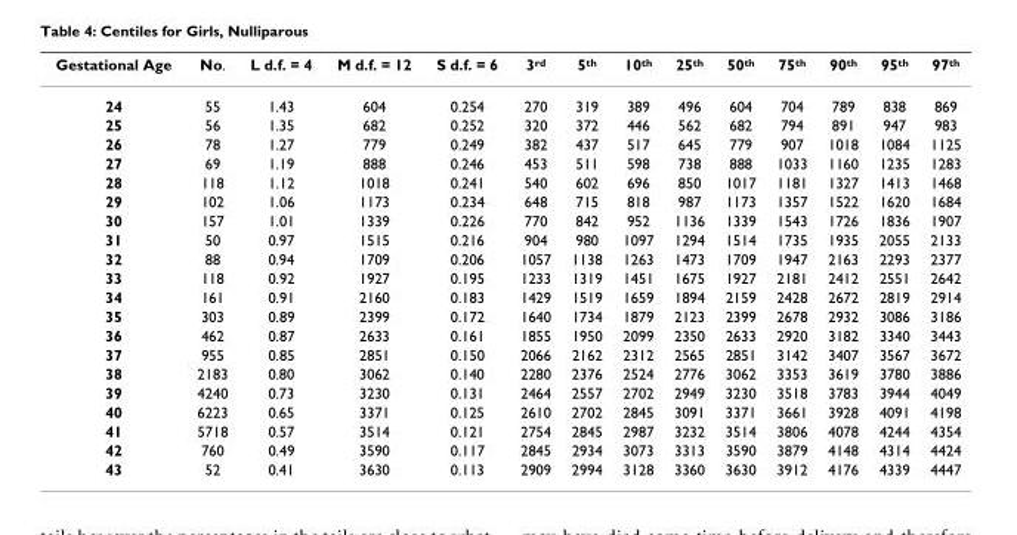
<table><thead><tr><td>Gestational Age</td><td>No.</td><td>L d.f. = 4</td><td>M d.f. = 12</td><td>S d.f. = 6</td><td>3<sup>rd</sup></td><td>5<sup>th</sup></td><td>10<sup>th</sup></td><td>25<sup>th</sup></td><td>50<sup>th</sup></td><td>75<sup>th</sup></td><td>90<sup>th</sup></td><td>95<sup>th</sup></td><td>97<sup>th</sup></td></tr></thead><tbody><tr><td>24</td><td>55</td><td>1.43</td><td>604</td><td>0.254</td><td>270</td><td>319</td><td>389</td><td>496</td><td>604</td><td>704</td><td>789</td><td>838</td><td>869</td></tr><tr><td>25</td><td>56</td><td>1.35</td><td>682</td><td>0.252</td><td>320</td><td>372</td><td>446</td><td>562</td><td>682</td><td>794</td><td>891</td><td>947</td><td>983</td></tr><tr><td>26</td><td>78</td><td>1.27</td><td>779</td><td>0.249</td><td>382</td><td>437</td><td>517</td><td>645</td><td>779</td><td>907</td><td>1018</td><td>1084</td><td>1125</td></tr><tr><td>27</td><td>69</td><td>1.19</td><td>888</td><td>0.246</td><td>453</td><td>511</td><td>598</td><td>738</td><td>888</td><td>1033</td><td>1160</td><td>1235</td><td>1283</td></tr><tr><td>28</td><td>118</td><td>1.12</td><td>1018</td><td>0.241</td><td>540</td><td>602</td><td>696</td><td>850</td><td>1017</td><td>1181</td><td>1327</td><td>1413</td><td>1468</td></tr><tr><td>29</td><td>102</td><td>1.06</td><td>1173</td><td>0.234</td><td>648</td><td>715</td><td>818</td><td>987</td><td>1173</td><td>1357</td><td>1522</td><td>1620</td><td>1684</td></tr><tr><td>30</td><td>157</td><td>1.01</td><td>1339</td><td>0.226</td><td>770</td><td>842</td><td>952</td><td>1136</td><td>1339</td><td>1543</td><td>1726</td><td>1836</td><td>1907</td></tr><tr><td>31</td><td>50</td><td>0.97</td><td>1515</td><td>0.216</td><td>904</td><td>980</td><td>1097</td><td>1294</td><td>1514</td><td>1735</td><td>1935</td><td>2055</td><td>2133</td></tr><tr><td>32</td><td>88</td><td>0.94</td><td>1709</td><td>0.206</td><td>1057</td><td>1138</td><td>1263</td><td>1473</td><td>1709</td><td>1947</td><td>2163</td><td>2293</td><td>2377</td></tr><tr><td>33</td><td>118</td><td>0.92</td><td>1927</td><td>0.195</td><td>1233</td><td>1319</td><td>1451</td><td>1675</td><td>1927</td><td>2181</td><td>2412</td><td>2551</td><td>2642</td></tr><tr><td>34</td><td>161</td><td>0.91</td><td>2160</td><td>0.183</td><td>1429</td><td>1519</td><td>1659</td><td>1894</td><td>2159</td><td>2428</td><td>2672</td><td>2819</td><td>2914</td></tr><tr><td>35</td><td>303</td><td>0.89</td><td>2399</td><td>0.172</td><td>1640</td><td>1734</td><td>1879</td><td>2123</td><td>2399</td><td>2678</td><td>2932</td><td>3086</td><td>3186</td></tr><tr><td>36</td><td>462</td><td>0.87</td><td>2633</td><td>0.161</td><td>1855</td><td>1950</td><td>2099</td><td>2350</td><td>2633</td><td>2920</td><td>3182</td><td>3340</td><td>3443</td></tr><tr><td>37</td><td>955</td><td>0.85</td><td>2851</td><td>0.150</td><td>2066</td><td>2162</td><td>2312</td><td>2565</td><td>2851</td><td>3142</td><td>3407</td><td>3567</td><td>3672</td></tr><tr><td>38</td><td>2183</td><td>0.80</td><td>3062</td><td>0.140</td><td>2280</td><td>2376</td><td>2524</td><td>2776</td><td>3062</td><td>3353</td><td>3619</td><td>3780</td><td>3886</td></tr><tr><td>39</td><td>4240</td><td>0.73</td><td>3230</td><td>0.131</td><td>2464</td><td>2557</td><td>2702</td><td>2949</td><td>3230</td><td>3518</td><td>3783</td><td>3944</td><td>4049</td></tr><tr><td>40</td><td>6223</td><td>0.65</td><td>3371</td><td>0.125</td><td>2610</td><td>2702</td><td>2845</td><td>3091</td><td>3371</td><td>3661</td><td>3928</td><td>4091</td><td>4198</td></tr><tr><td>41</td><td>5718</td><td>0.57</td><td>3514</td><td>0.121</td><td>2754</td><td>2845</td><td>2987</td><td>3232</td><td>3514</td><td>3806</td><td>4078</td><td>4244</td><td>4354</td></tr><tr><td>42</td><td>760</td><td>0.49</td><td>3590</td><td>0.117</td><td>2845</td><td>2934</td><td>3073</td><td>3313</td><td>3590</td><td>3879</td><td>4148</td><td>4314</td><td>4424</td></tr><tr><td>43</td><td>52</td><td>0.41</td><td>3630</td><td>0.113</td><td>2909</td><td>2994</td><td>3128</td><td>3360</td><td>3630</td><td>3912</td><td>4176</td><td>4339</td><td>4447</td></tr></tbody></table>